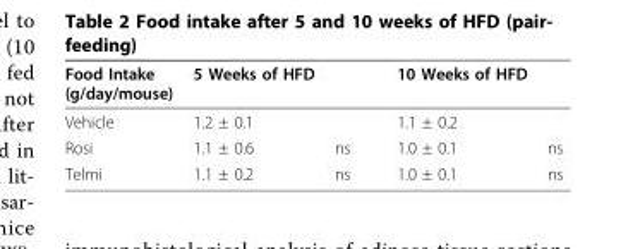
<table><thead><tr><td>Food Intake (g/day/mouse)</td><td>5 Weeks of HFD</td><td></td><td>10 Weeks of HFD</td><td></td></tr></thead><tbody><tr><td>Vehicle</td><td>1.2 ± 0.1</td><td></td><td>1.1 ± 0.2</td><td></td></tr><tr><td>Rosi</td><td>1.1 ± 0.6</td><td>ns</td><td>1.0 ± 0.1</td><td>ns</td></tr><tr><td>Telmi</td><td>1.1 ± 0.2</td><td>ns</td><td>1.0 ± 0.1</td><td>ns</td></tr></tbody></table>